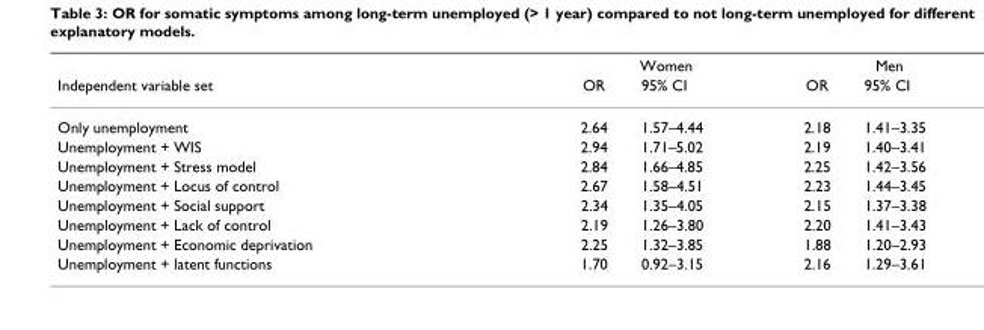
<table><thead><tr><td rowspan="2">Independent variable set</td><td colspan="2">Women</td><td colspan="2">Men</td></tr><tr><td>OR</td><td>95% CI</td><td>OR</td><td>95% CI</td></tr></thead><tbody><tr><td>Only unemployment</td><td>2.64</td><td>1.57–4.44</td><td>2.18</td><td>1.41–3.35</td></tr><tr><td>Unemployment + WIS</td><td>2.94</td><td>1.71–5.02</td><td>2.19</td><td>1.40–3.41</td></tr><tr><td>Unemployment + Stress model</td><td>2.84</td><td>1.66–4.85</td><td>2.25</td><td>1.42–3.56</td></tr><tr><td>Unemployment + Locus of control</td><td>2.67</td><td>1.58–4.51</td><td>2.23</td><td>1.44–3.45</td></tr><tr><td>Unemployment + Social support</td><td>2.34</td><td>1.35–4.05</td><td>2.15</td><td>1.37–3.38</td></tr><tr><td>Unemployment + Lack of control</td><td>2.19</td><td>1.26–3.80</td><td>2.20</td><td>1.41–3.43</td></tr><tr><td>Unemployment + Economic deprivation</td><td>2.25</td><td>1.32–3.85</td><td>1.88</td><td>1.20–2.93</td></tr><tr><td>Unemployment + latent functions</td><td>1.70</td><td>0.92–3.15</td><td>2.16</td><td>1.29–3.61</td></tr></tbody></table>